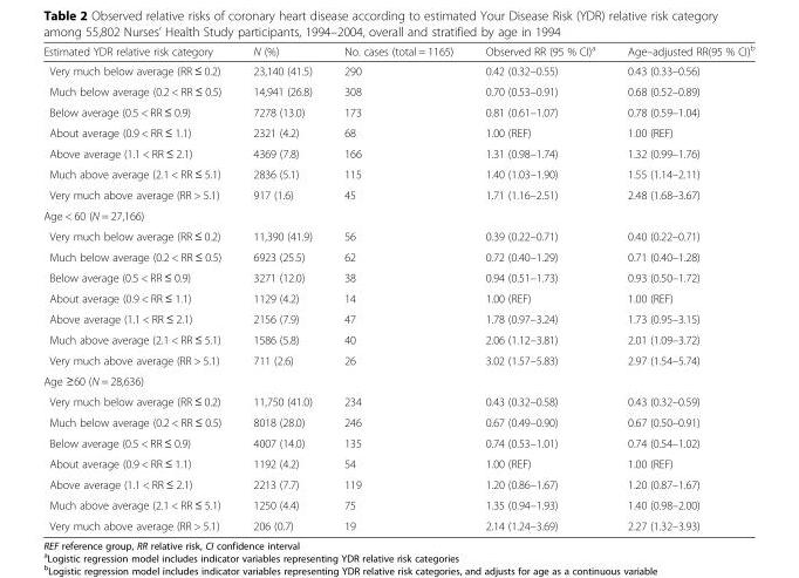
<table><thead><tr><td>Estimated YDR relative risk category</td><td>N (%)</td><td>No. cases (total = 1165)</td><td>Observed RR (95 % CI)<sup>a</sup></td><td>Age–adjusted RR(95 % CI)<sup>b</sup></td></tr></thead><tbody><tr><td>Very much below average (RR ≤ 0.2)</td><td>23,140 (41.5)</td><td>290</td><td>0.42 (0.32–0.55)</td><td>0.43 (0.33–0.56)</td></tr><tr><td>Much below average (0.2 &lt; RR ≤ 0.5)</td><td>14,941 (26.8)</td><td>308</td><td>0.70 (0.53–0.91)</td><td>0.68 (0.52–0.89)</td></tr><tr><td>Below average (0.5 &lt; RR ≤ 0.9)</td><td>7278 (13.0)</td><td>173</td><td>0.81 (0.61–1.07)</td><td>0.78 (0.59–1.04)</td></tr><tr><td>About average (0.9 &lt; RR ≤ 1.1)</td><td>2321 (4.2)</td><td>68</td><td>1.00 (REF)</td><td>1.00 (REF)</td></tr><tr><td>Above average (1.1 &lt; RR ≤ 2.1)</td><td>4369 (7.8)</td><td>166</td><td>1.31 (0.98–1.74)</td><td>1.32 (0.99–1.76)</td></tr><tr><td>Much above average (2.1 &lt; RR ≤ 5.1)</td><td>2836 (5.1)</td><td>115</td><td>1.40 (1.03–1.90)</td><td>1.55 (1.14–2.11)</td></tr><tr><td>Very much above average (RR &gt; 5.1)</td><td>917 (1.6)</td><td>45</td><td>1.71 (1.16–2.51)</td><td>2.48 (1.68–3.67)</td></tr><tr><td colspan="5">Age &lt; 60 (N = 27,166)</td></tr><tr><td>Very much below average (RR ≤ 0.2)</td><td>11,390 (41.9)</td><td>56</td><td>0.39 (0.22–0.71)</td><td>0.40 (0.22–0.71)</td></tr><tr><td>Much below average (0.2 &lt; RR ≤ 0.5)</td><td>6923 (25.5)</td><td>62</td><td>0.72 (0.40–1.29)</td><td>0.71 (0.40–1.28)</td></tr><tr><td>Below average (0.5 &lt; RR ≤ 0.9)</td><td>3271 (12.0)</td><td>38</td><td>0.94 (0.51–1.73)</td><td>0.93 (0.50–1.72)</td></tr><tr><td>About average (0.9 &lt; RR ≤ 1.1)</td><td>1129 (4.2)</td><td>14</td><td>1.00 (REF)</td><td>1.00 (REF)</td></tr><tr><td>Above average (1.1 &lt; RR ≤ 2.1)</td><td>2156 (7.9)</td><td>47</td><td>1.78 (0.97–3.24)</td><td>1.73 (0.95–3.15)</td></tr><tr><td>Much above average (2.1 &lt; RR ≤ 5.1)</td><td>1586 (5.8)</td><td>40</td><td>2.06 (1.12–3.81)</td><td>2.01 (1.09–3.72)</td></tr><tr><td>Very much above average (RR &gt; 5.1)</td><td>711 (2.6)</td><td>26</td><td>3.02 (1.57–5.83)</td><td>2.97 (1.54–5.74)</td></tr><tr><td colspan="5">Age ≥60 (N = 28,636)</td></tr><tr><td>Very much below average (RR ≤ 0.2)</td><td>11,750 (41.0)</td><td>234</td><td>0.43 (0.32–0.58)</td><td>0.43 (0.32–0.59)</td></tr><tr><td>Much below average (0.2 &lt; RR ≤ 0.5)</td><td>8018 (28.0)</td><td>246</td><td>0.67 (0.49–0.90)</td><td>0.67 (0.50–0.91)</td></tr><tr><td>Below average (0.5 &lt; RR ≤ 0.9)</td><td>4007 (14.0)</td><td>135</td><td>0.74 (0.53–1.01)</td><td>0.74 (0.54–1.02)</td></tr><tr><td>About average (0.9 &lt; RR ≤ 1.1)</td><td>1192 (4.2)</td><td>54</td><td>1.00 (REF)</td><td>1.00 (REF)</td></tr><tr><td>Above average (1.1 &lt; RR ≤ 2.1)</td><td>2213 (7.7)</td><td>119</td><td>1.20 (0.86–1.67)</td><td>1.20 (0.87–1.67)</td></tr><tr><td>Much above average (2.1 &lt; RR ≤ 5.1)</td><td>1250 (4.4)</td><td>75</td><td>1.35 (0.94–1.93)</td><td>1.40 (0.98–2.00)</td></tr><tr><td>Very much above average (RR &gt; 5.1)</td><td>206 (0.7)</td><td>19</td><td>2.14 (1.24–3.69)</td><td>2.27 (1.32–3.93)</td></tr></tbody></table>